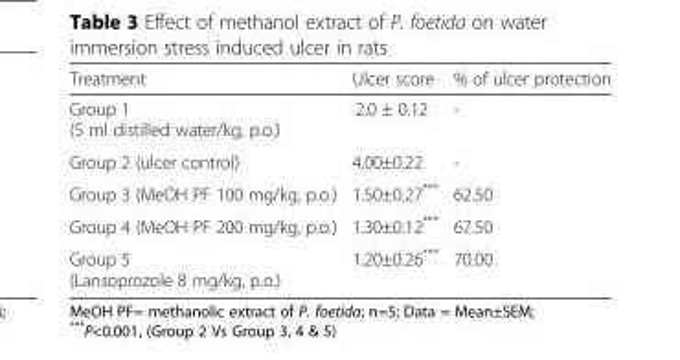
<table><thead><tr><td>Treatment</td><td>Ulcer score</td><td>% of ulcer protection</td></tr></thead><tbody><tr><td>Group 1 (5 ml distilled water/kg, p.o.)</td><td>2.0 ± 0.12</td><td>-</td></tr><tr><td>Group 2 (ulcer control)</td><td>4.00±0.22</td><td>-</td></tr><tr><td>Group 3 (MeOH PF 100 mg/kg, p.o.)</td><td>1.50±0.27***</td><td>62.50</td></tr><tr><td>Group 4 (MeOH PF 200 mg/kg, p.o.)</td><td>1.30±0.12***</td><td>67.50</td></tr><tr><td>Group 5 (Lansoprozole 8 mg/kg, p.o.)</td><td>1.20±0.26***</td><td>70.00</td></tr></tbody></table>